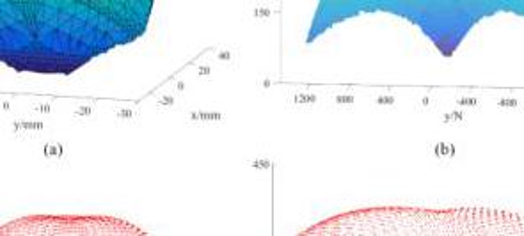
<table><thead><tr><td>Parameter</td><td>Value</td><td>Parameter</td><td>Value (mm)</td></tr></thead><tbody><tr><td>G</td><td>8000 kg/mm<sup>2</sup></td><td>r</td><td>92</td></tr><tr><td>d</td><td>2.5</td><td>b</td><td>208</td></tr><tr><td>D<sub>o</sub></td><td>14</td><td>L</td><td>90</td></tr><tr><td>N</td><td>20</td><td>m</td><td>280</td></tr></tbody></table>